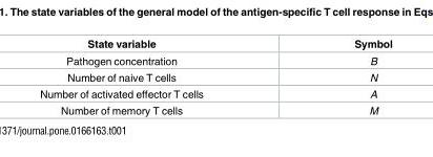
<table><thead><tr><td>State variable</td><td>Symbol</td></tr></thead><tbody><tr><td>Pathogen concentration</td><td>B</td></tr><tr><td>Number of naive T cells</td><td>N</td></tr><tr><td>Number of activated effector T cells</td><td>A</td></tr><tr><td>Number of memory T cells</td><td>M</td></tr></tbody></table>